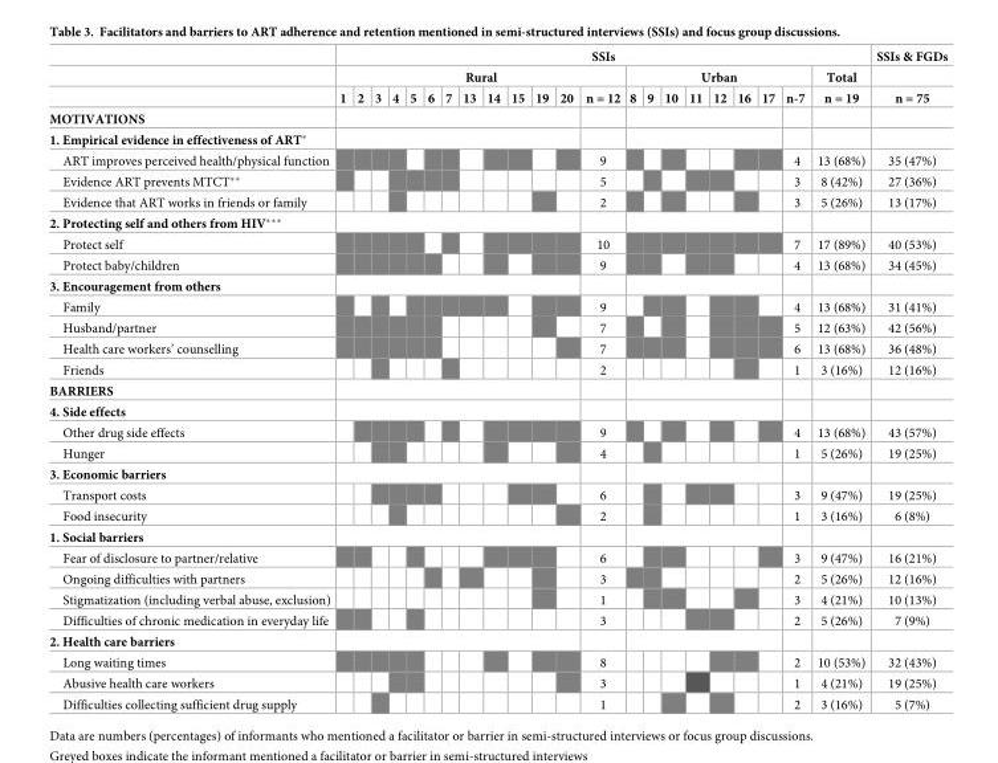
<table><thead><tr><td rowspan="3"></td><td colspan="22">SSIs</td><td rowspan="3">SSIs &amp; FGDs n = 75</td></tr><tr><td colspan="13">Rural</td><td colspan="8">Urban</td><td rowspan="2">Total n = 19</td></tr><tr><td>1</td><td>2</td><td>3</td><td>4</td><td>5</td><td>6</td><td>7</td><td>13</td><td>14</td><td>15</td><td>19</td><td>20</td><td>n = 12</td><td>8</td><td>9</td><td>10</td><td>11</td><td>12</td><td>16</td><td>17</td><td>n-7</td></tr></thead><tbody><tr><td colspan="24">MOTIVATIONS</td></tr><tr><td colspan="24">1. Empirical evidence in effectiveness of ART*</td></tr><tr><td>ART improves perceived health/physical function</td><td></td><td></td><td></td><td></td><td></td><td></td><td></td><td></td><td></td><td></td><td></td><td></td><td>9</td><td></td><td></td><td></td><td></td><td></td><td></td><td></td><td>4</td><td>13 (68%)</td><td>35 (47%)</td></tr><tr><td>Evidence ART prevents MTCT**</td><td></td><td></td><td></td><td></td><td></td><td></td><td></td><td></td><td></td><td></td><td></td><td></td><td>5</td><td></td><td></td><td></td><td></td><td></td><td></td><td></td><td>3</td><td>8 (42%)</td><td>27 (36%)</td></tr><tr><td>Evidence that ART works in friends or family</td><td></td><td></td><td></td><td></td><td></td><td></td><td></td><td></td><td></td><td></td><td></td><td></td><td>2</td><td></td><td></td><td></td><td></td><td></td><td></td><td></td><td>3</td><td>5 (26%)</td><td>13 (17%)</td></tr><tr><td colspan="24">2. Protecting self and others from HIV***</td></tr><tr><td>Protect self</td><td></td><td></td><td></td><td></td><td></td><td></td><td></td><td></td><td></td><td></td><td></td><td></td><td>10</td><td></td><td></td><td></td><td></td><td></td><td></td><td></td><td>7</td><td>17 (89%)</td><td>40 (53%)</td></tr><tr><td>Protect baby/children</td><td></td><td></td><td></td><td></td><td></td><td></td><td></td><td></td><td></td><td></td><td></td><td></td><td>9</td><td></td><td></td><td></td><td></td><td></td><td></td><td></td><td>4</td><td>13 (68%)</td><td>34 (45%)</td></tr><tr><td colspan="24">3. Encouragement from others</td></tr><tr><td>Family</td><td></td><td></td><td></td><td></td><td></td><td></td><td></td><td></td><td></td><td></td><td></td><td></td><td>9</td><td></td><td></td><td></td><td></td><td></td><td></td><td></td><td>4</td><td>13 (68%)</td><td>31 (41%)</td></tr><tr><td>Husband/partner</td><td></td><td></td><td></td><td></td><td></td><td></td><td></td><td></td><td></td><td></td><td></td><td></td><td>7</td><td></td><td></td><td></td><td></td><td></td><td></td><td></td><td>5</td><td>12 (63%)</td><td>42 (56%)</td></tr><tr><td>Health care workers’ counselling</td><td></td><td></td><td></td><td></td><td></td><td></td><td></td><td></td><td></td><td></td><td></td><td></td><td>7</td><td></td><td></td><td></td><td></td><td></td><td></td><td></td><td>6</td><td>13 (68%)</td><td>36 (48%)</td></tr><tr><td>Friends</td><td></td><td></td><td></td><td></td><td></td><td></td><td></td><td></td><td></td><td></td><td></td><td></td><td>2</td><td></td><td></td><td></td><td></td><td></td><td></td><td></td><td>1</td><td>3 (16%)</td><td>12 (16%)</td></tr><tr><td colspan="24">BARRIERS</td></tr><tr><td colspan="24">4. Side effects</td></tr><tr><td>Other drug side effects</td><td></td><td></td><td></td><td></td><td></td><td></td><td></td><td></td><td></td><td></td><td></td><td></td><td>9</td><td></td><td></td><td></td><td></td><td></td><td></td><td></td><td>4</td><td>13 (68%)</td><td>43 (57%)</td></tr><tr><td>Hunger</td><td></td><td></td><td></td><td></td><td></td><td></td><td></td><td></td><td></td><td></td><td></td><td></td><td>4</td><td></td><td></td><td></td><td></td><td></td><td></td><td></td><td>1</td><td>5 (26%)</td><td>19 (25%)</td></tr><tr><td colspan="24">3. Economic barriers</td></tr><tr><td>Transport costs</td><td></td><td></td><td></td><td></td><td></td><td></td><td></td><td></td><td></td><td></td><td></td><td></td><td>6</td><td></td><td></td><td></td><td></td><td></td><td></td><td></td><td>3</td><td>9 (47%)</td><td>19 (25%)</td></tr><tr><td>Food insecurity</td><td></td><td></td><td></td><td></td><td></td><td></td><td></td><td></td><td></td><td></td><td></td><td></td><td>2</td><td></td><td></td><td></td><td></td><td></td><td></td><td></td><td>1</td><td>3 (16%)</td><td>6 (8%)</td></tr><tr><td colspan="24">1. Social barriers</td></tr><tr><td>Fear of disclosure to partner/relative</td><td></td><td></td><td></td><td></td><td></td><td></td><td></td><td></td><td></td><td></td><td></td><td></td><td>6</td><td></td><td></td><td></td><td></td><td></td><td></td><td></td><td>3</td><td>9 (47%)</td><td>16 (21%)</td></tr><tr><td>Ongoing difficulties with partners</td><td></td><td></td><td></td><td></td><td></td><td></td><td></td><td></td><td></td><td></td><td></td><td></td><td>3</td><td></td><td></td><td></td><td></td><td></td><td></td><td></td><td>2</td><td>5 (26%)</td><td>12 (16%)</td></tr><tr><td>Stigmatization (including verbal abuse, exclusion)</td><td></td><td></td><td></td><td></td><td></td><td></td><td></td><td></td><td></td><td></td><td></td><td></td><td>1</td><td></td><td></td><td></td><td></td><td></td><td></td><td></td><td>3</td><td>4 (21%)</td><td>10 (13%)</td></tr><tr><td>Difficulties of chronic medication in everyday life</td><td></td><td></td><td></td><td></td><td></td><td></td><td></td><td></td><td></td><td></td><td></td><td></td><td>3</td><td></td><td></td><td></td><td></td><td></td><td></td><td></td><td>2</td><td>5 (26%)</td><td>7 (9%)</td></tr><tr><td colspan="24">2. Health care barriers</td></tr><tr><td>Long waiting times</td><td></td><td></td><td></td><td></td><td></td><td></td><td></td><td></td><td></td><td></td><td></td><td></td><td>8</td><td></td><td></td><td></td><td></td><td></td><td></td><td></td><td>2</td><td>10 (53%)</td><td>32 (43%)</td></tr><tr><td>Abusive health care workers</td><td></td><td></td><td></td><td></td><td></td><td></td><td></td><td></td><td></td><td></td><td></td><td></td><td>3</td><td></td><td></td><td></td><td></td><td></td><td></td><td></td><td>1</td><td>4 (21%)</td><td>19 (25%)</td></tr><tr><td>Difficulties collecting sufficient drug supply</td><td></td><td></td><td></td><td></td><td></td><td></td><td></td><td></td><td></td><td></td><td></td><td></td><td>1</td><td></td><td></td><td></td><td></td><td></td><td></td><td></td><td>2</td><td>3 (16%)</td><td>5 (7%)</td></tr></tbody></table>